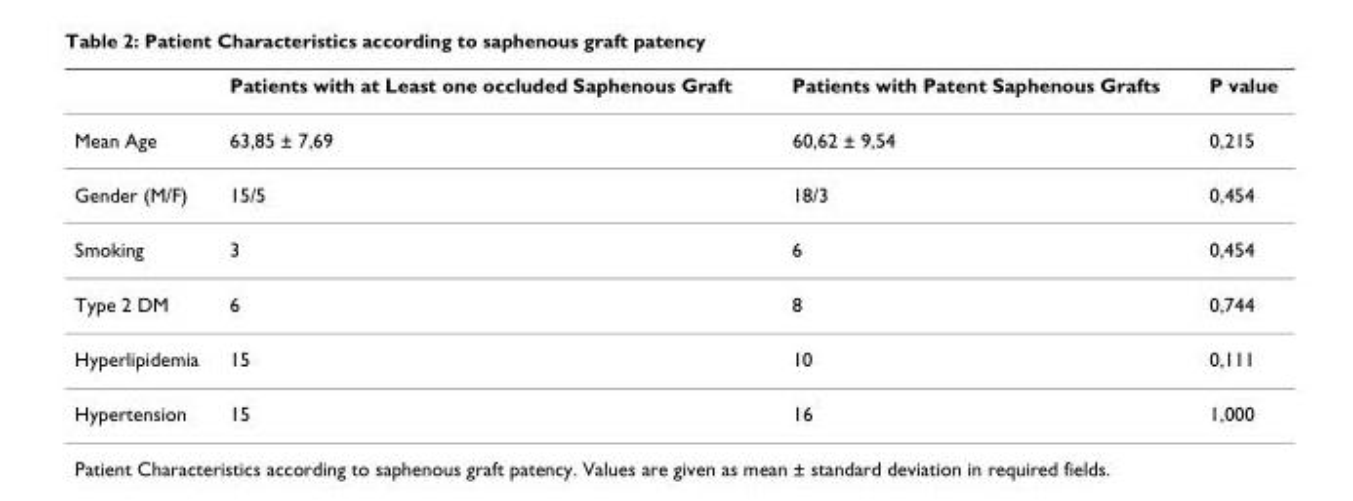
<table><thead><tr><td></td><td>Patients with at Least one occluded Saphenous Graft</td><td>Patients with Patent Saphenous Grafts</td><td>P value</td></tr></thead><tbody><tr><td>Mean Age</td><td>63,85 ± 7,69</td><td>60,62 ± 9,54</td><td>0,215</td></tr><tr><td>Gender (M/F)</td><td>15/5</td><td>18/3</td><td>0,454</td></tr><tr><td>Smoking</td><td>3</td><td>6</td><td>0,454</td></tr><tr><td>Type 2 DM</td><td>6</td><td>8</td><td>0,744</td></tr><tr><td>Hyperlipidemia</td><td>15</td><td>10</td><td>0,111</td></tr><tr><td>Hypertension</td><td>15</td><td>16</td><td>1,000</td></tr></tbody></table>